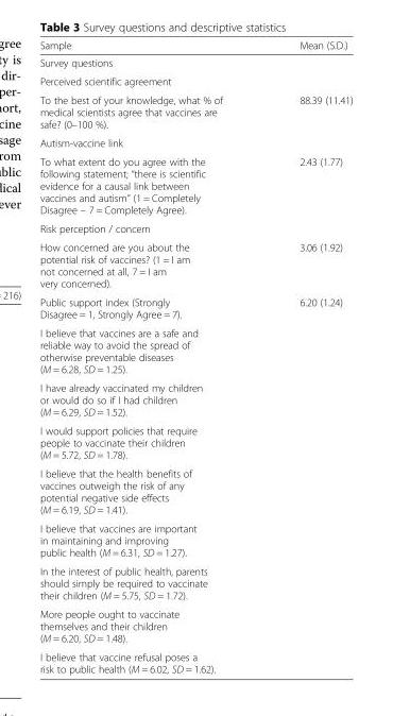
<table><thead><tr><td>Sample</td><td>Mean (S.D.)</td></tr></thead><tbody><tr><td colspan="2">Survey questions</td></tr><tr><td colspan="2">Perceived scientific agreement</td></tr><tr><td>To the best of your knowledge, what % of medical scientists agree that vaccines are safe? (0–100 %).</td><td>88.39 (11.41)</td></tr><tr><td colspan="2">Autism-vaccine link</td></tr><tr><td>To what extent do you agree with the following statement; “there is scientific evidence for a causal link between vaccines and autism” (1 = Completely Disagree – 7 = Completely Agree).</td><td>2.43 (1.77)</td></tr><tr><td colspan="2">Risk perception / concern</td></tr><tr><td>How concerned are you about the potential risk of vaccines? (1 = I am not concerned at all, 7 = I am very concerned).</td><td>3.06 (1.92)</td></tr><tr><td>Public support index (Strongly Disagree = 1, Strongly Agree = 7).</td><td>6.20 (1.24)</td></tr><tr><td>I believe that vaccines are a safe and reliable way to avoid the spread of otherwise preventable diseases (M = 6.28, SD = 1.25).</td><td rowspan="8"></td></tr><tr><td>I have already vaccinated my children or would do so if I had children (M = 6.29, SD = 1.52).</td></tr><tr><td>I would support policies that require people to vaccinate their children (M = 5.72, SD = 1.78).</td></tr><tr><td>I believe that the health benefits of vaccines outweigh the risk of any potential negative side effects (M = 6.19, SD = 1.41).</td></tr><tr><td>I believe that vaccines are important in maintaining and improving public health (M = 6.31, SD = 1.27).</td></tr><tr><td>In the interest of public health, parents should simply be required to vaccinate their children (M = 5.75, SD = 1.72).</td></tr><tr><td>More people ought to vaccinate themselves and their children (M = 6.20, SD = 1.48).</td></tr><tr><td>I believe that vaccine refusal poses a risk to public health (M = 6.02, SD = 1.62).</td></tr></tbody></table>